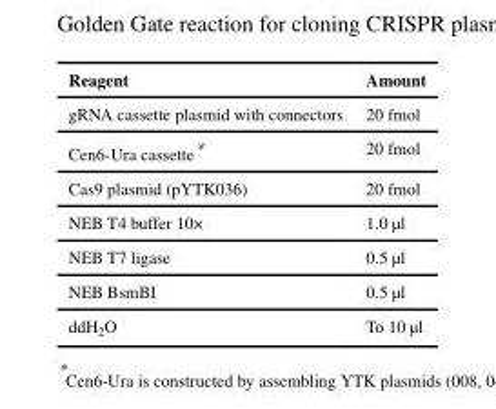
<table><thead><tr><td>Reagent</td><td>Amount</td></tr></thead><tbody><tr><td>gRNA cassette plasmid with connectors</td><td>20 fmol</td></tr><tr><td>Cen6-Ura cassette*</td><td>20 fmol</td></tr><tr><td>Cas9 plasmid (pYTK036)</td><td>20 fmol</td></tr><tr><td>NEB T4 buffer 10×</td><td>1.0 μl</td></tr><tr><td>NEB T7 ligase</td><td>0.5 μl</td></tr><tr><td>NEB BsmBI</td><td>0.5 μl</td></tr><tr><td>ddH<sub>2</sub>O</td><td>To 10 μl</td></tr></tbody></table>